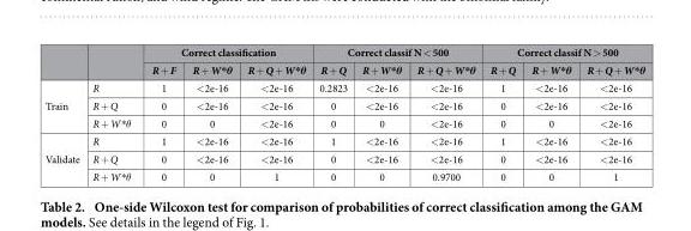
<table><thead><tr><td rowspan="2"></td><td rowspan="2"></td><td colspan="3">Correct classification</td><td colspan="3">Correct classif N &lt; 500</td><td colspan="3">Correct classif N &gt; 500</td></tr><tr><td>R + F</td><td>R + W*θ</td><td>R + Q + W*θ</td><td>R + Q</td><td>R + W*θ</td><td>R + Q + W*θ</td><td>R + Q</td><td>R + W*θ</td><td>R + Q + W*θ</td></tr></thead><tbody><tr><td rowspan="3">Train</td><td>R</td><td>1</td><td>&lt; 2e-16</td><td>&lt; 2e-16</td><td>0.2823</td><td>&lt; 2e-16</td><td>&lt; 2e-16</td><td>1</td><td>&lt; 2e-16</td><td>&lt; 2e-16</td></tr><tr><td>R + Q</td><td>0</td><td>&lt; 2e-16</td><td>&lt; 2e-16</td><td>0</td><td>&lt; 2e-16</td><td>&lt; 2e-16</td><td>0</td><td>&lt; 2e-16</td><td>&lt; 2e-16</td></tr><tr><td>R + W*θ</td><td>0</td><td>0</td><td>&lt; 2e-16</td><td>0</td><td>0</td><td>&lt; 2e-16</td><td>0</td><td>0</td><td>&lt; 2e-16</td></tr><tr><td rowspan="3">Validate</td><td>R</td><td>1</td><td>&lt; 2e-16</td><td>&lt; 2e-16</td><td>1</td><td>&lt; 2e-16</td><td>&lt; 2e-16</td><td>1</td><td>&lt; 2e-16</td><td>&lt; 2e-16</td></tr><tr><td>R + Q</td><td>0</td><td>&lt; 2e-16</td><td>&lt; 2e-16</td><td>0</td><td>&lt; 2e-16</td><td>&lt; 2e-16</td><td>0</td><td>&lt; 2e-16</td><td>&lt; 2e-16</td></tr><tr><td>R + W*θ</td><td>0</td><td>0</td><td>1</td><td>0</td><td>0</td><td>0.9700</td><td>0</td><td>0</td><td>1</td></tr></tbody></table>